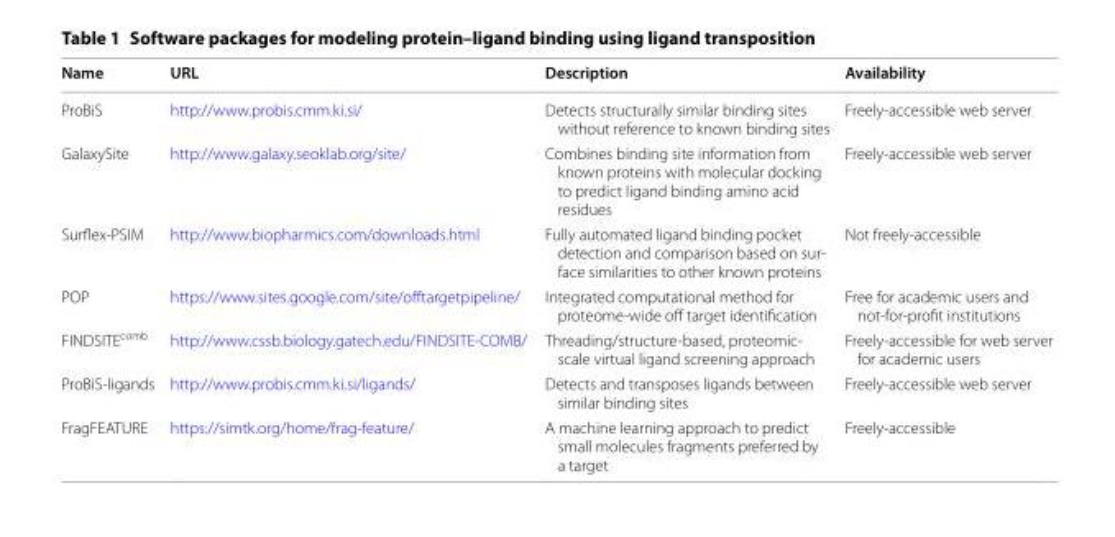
<table><thead><tr><td>Name</td><td>URL</td><td>Description</td><td>Availability</td></tr></thead><tbody><tr><td>ProBiS</td><td>http://www.probis.cmm.ki.si/</td><td>Detects structurally similar binding sites without reference to known binding sites</td><td>Freely-accessible web server</td></tr><tr><td>GalaxySite</td><td>http://www.galaxy.seoklab.org/site/</td><td>Combines binding site information from known proteins with molecular docking to predict ligand binding amino acid residues</td><td>Freely-accessible web server</td></tr><tr><td>Surflex-PSIM</td><td>http://www.biopharmics.com/downloads.html</td><td>Fully automated ligand binding pocket detection and comparison based on sur- face similarities to other known proteins</td><td>Not freely-accessible</td></tr><tr><td>POP</td><td>https://www.sites.google.com/site/offtargetpipeline/</td><td>Integrated computational method for proteome-wide off target identification</td><td>Free for academic users and not-for-profit institutions</td></tr><tr><td>FINDSITE<sup>comb</sup></td><td>http://www.cssb.biology.gatech.edu/FINDSITE-COMB/</td><td>Threading/structure-based, proteomic- scale virtual ligand screening approach</td><td>Freely-accessible for web server for academic users</td></tr><tr><td>ProBiS-ligands</td><td>http://www.probis.cmm.ki.si/ligands/</td><td>Detects and transposes ligands between similar binding sites</td><td>Freely-accessible web server</td></tr><tr><td>FragFEATURE</td><td>https://simtk.org/home/frag-feature/</td><td>A machine learning approach to predict small molecules fragments preferred by a target</td><td>Freely-accessible</td></tr></tbody></table>